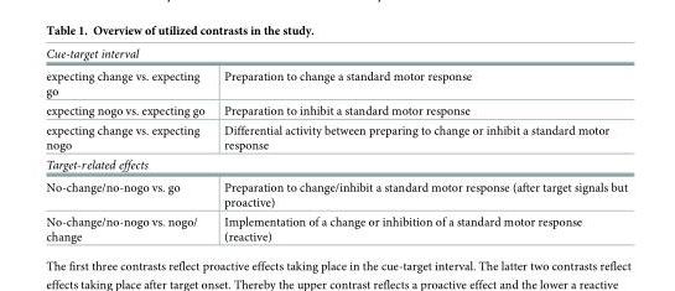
<table><tbody><tr><td colspan="2">Cue-target interval</td></tr><tr><td>expecting change vs. expecting go</td><td>Preparation to change a standard motor response</td></tr><tr><td>expecting nogo vs. expecting go</td><td>Preparation to inhibit a standard motor response</td></tr><tr><td>expecting change vs. expecting nogo</td><td>Differential activity between preparing to change or inhibit a standard motor response</td></tr><tr><td colspan="2">Target-related effects</td></tr><tr><td>No-change/no-nogo vs. go</td><td>Preparation to change/inhibit a standard motor response (after target signals but proactive)</td></tr><tr><td>No-change/no-nogo vs. nogo/ change</td><td>Implementation of a change or inhibition of a standard motor response (reactive)</td></tr></tbody></table>